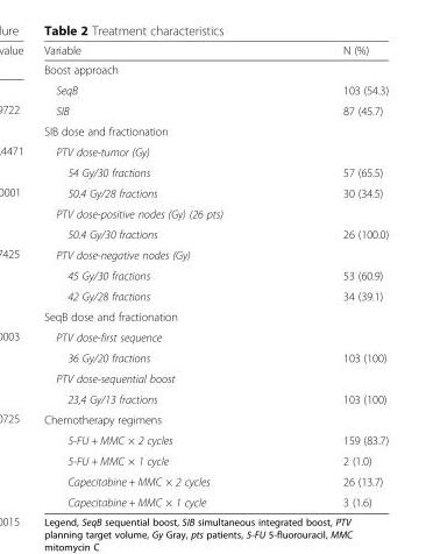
<table><thead><tr><td>Variable</td><td>N (%)</td></tr></thead><tbody><tr><td colspan="2">Boost approach</td></tr><tr><td>SeqB</td><td>103 (54.3)</td></tr><tr><td>SIB</td><td>87 (45.7)</td></tr><tr><td colspan="2">SIB dose and fractionation</td></tr><tr><td colspan="2">PTV dose-tumor (Gy)</td></tr><tr><td>54 Gy/30 fractions</td><td>57 (65.5)</td></tr><tr><td>50.4 Gy/28 fractions</td><td>30 (34.5)</td></tr><tr><td colspan="2">PTV dose-positive nodes (Gy) (26 pts)</td></tr><tr><td>50.4 Gy/30 fractions</td><td>26 (100.0)</td></tr><tr><td colspan="2">PTV dose-negative nodes (Gy)</td></tr><tr><td>45 Gy/30 fractions</td><td>53 (60.9)</td></tr><tr><td>42 Gy/28 fractions</td><td>34 (39.1)</td></tr><tr><td colspan="2">SeqB dose and fractionation</td></tr><tr><td colspan="2">PTV dose-first sequence</td></tr><tr><td>36 Gy/20 fractions</td><td>103 (100)</td></tr><tr><td colspan="2">PTV dose-sequential boost</td></tr><tr><td>23,4 Gy/13 fractions</td><td>103 (100)</td></tr><tr><td colspan="2">Chemotherapy regimens</td></tr><tr><td>5-FU + MMC × 2 cycles</td><td>159 (83.7)</td></tr><tr><td>5-FU + MMC × 1 cycle</td><td>2 (1.0)</td></tr><tr><td>Capecitabine + MMC × 2 cycles</td><td>26 (13.7)</td></tr><tr><td>Capecitabine + MMC × 1 cycle</td><td>3 (1.6)</td></tr></tbody></table>